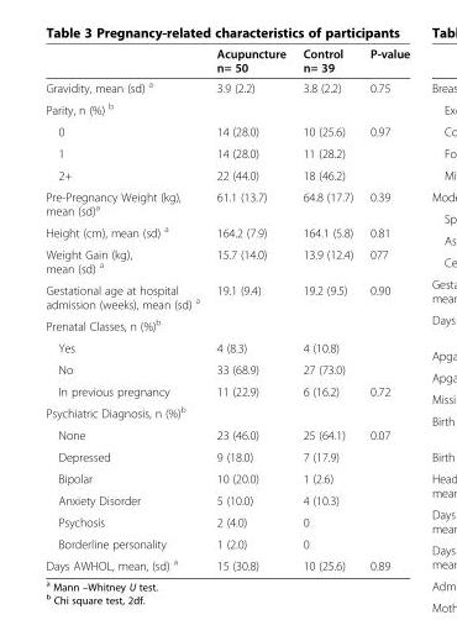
<table><thead><tr><td></td><td>Acupuncture n= 50</td><td>Control n= 39</td><td>P-value</td></tr></thead><tbody><tr><td>Gravidity, mean (sd) <sup>a</sup></td><td>3.9 (2.2)</td><td>3.8 (2.2)</td><td>0.75</td></tr><tr><td colspan="4">Parity, n (%) <sup>b</sup></td></tr><tr><td>0</td><td>14 (28.0)</td><td>10 (25.6)</td><td>0.97</td></tr><tr><td>1</td><td>14 (28.0)</td><td>11 (28.2)</td><td></td></tr><tr><td>2+</td><td>22 (44.0)</td><td>18 (46.2)</td><td></td></tr><tr><td>Pre-Pregnancy Weight (kg), mean (sd)<sup>a</sup></td><td>61.1 (13.7)</td><td>64.8 (17.7)</td><td>0.39</td></tr><tr><td>Height (cm), mean (sd) <sup>a</sup></td><td>164.2 (7.9)</td><td>164.1 (5.8)</td><td>0.81</td></tr><tr><td>Weight Gain (kg), mean (sd) <sup>a</sup></td><td>15.7 (14.0)</td><td>13.9 (12.4)</td><td>077</td></tr><tr><td>Gestational age at hospital admission (weeks), mean (sd) <sup>a</sup></td><td>19.1 (9.4)</td><td>19.2 (9.5)</td><td>0.90</td></tr><tr><td colspan="4">Prenatal Classes, n (%)<sup>b</sup></td></tr><tr><td>Yes</td><td>4 (8.3)</td><td>4 (10.8)</td><td></td></tr><tr><td>No</td><td>33 (68.9)</td><td>27 (73.0)</td><td></td></tr><tr><td>In previous pregnancy</td><td>11 (22.9)</td><td>6 (16.2)</td><td>0.72</td></tr><tr><td colspan="4">Psychiatric Diagnosis, n (%)<sup>b</sup></td></tr><tr><td>None</td><td>23 (46.0)</td><td>25 (64.1)</td><td>0.07</td></tr><tr><td>Depressed</td><td>9 (18.0)</td><td>7 (17.9)</td><td></td></tr><tr><td>Bipolar</td><td>10 (20.0)</td><td>1 (2.6)</td><td></td></tr><tr><td>Anxiety Disorder</td><td>5 (10.0)</td><td>4 (10.3)</td><td></td></tr><tr><td>Psychosis</td><td>2 (4.0)</td><td>0</td><td></td></tr><tr><td>Borderline personality</td><td>1 (2.0)</td><td>0</td><td></td></tr><tr><td>Days AWHOL, mean, (sd) <sup>a</sup></td><td>15 (30.8)</td><td>10 (25.6)</td><td>0.89</td></tr></tbody></table>